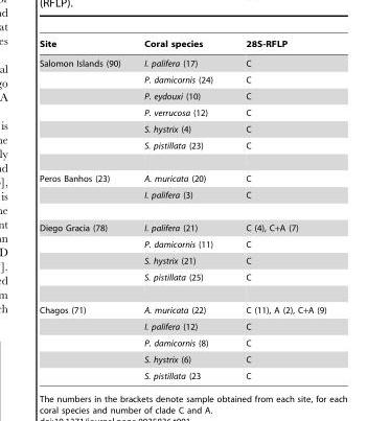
<table><thead><tr><td>Site</td><td>Coral species</td><td>28S-RFLP</td></tr></thead><tbody><tr><td rowspan="6">Salomon Islands (90)</td><td>I. palifera (17)</td><td>C</td></tr><tr><td>P. damicornis (24)</td><td>C</td></tr><tr><td>P. eydouxi (10)</td><td>C</td></tr><tr><td>P. verrucosa (12)</td><td>C</td></tr><tr><td>S. hystrix (4)</td><td>C</td></tr><tr><td>S. pistillata (23)</td><td>C</td></tr><tr><td rowspan="2">Peros Banhos (23)</td><td>A. muricata (20)</td><td>C</td></tr><tr><td>I. palifera (3)</td><td>C</td></tr><tr><td rowspan="4">Diego Gracia (78)</td><td>I. palifera (21)</td><td>C (4), C+A (7)</td></tr><tr><td>P. damicornis (11)</td><td>C</td></tr><tr><td>S. hystrix (21)</td><td>C</td></tr><tr><td>S. pistillata (25)</td><td>C</td></tr><tr><td rowspan="5">Chagos (71)</td><td>A. muricata (22)</td><td>C (11), A (2), C+A (9)</td></tr><tr><td>I. palifera (12)</td><td>C</td></tr><tr><td>P. damicornis (8)</td><td>C</td></tr><tr><td>S. hystrix (6)</td><td>C</td></tr><tr><td>S. pistillata (23</td><td>C</td></tr></tbody></table>